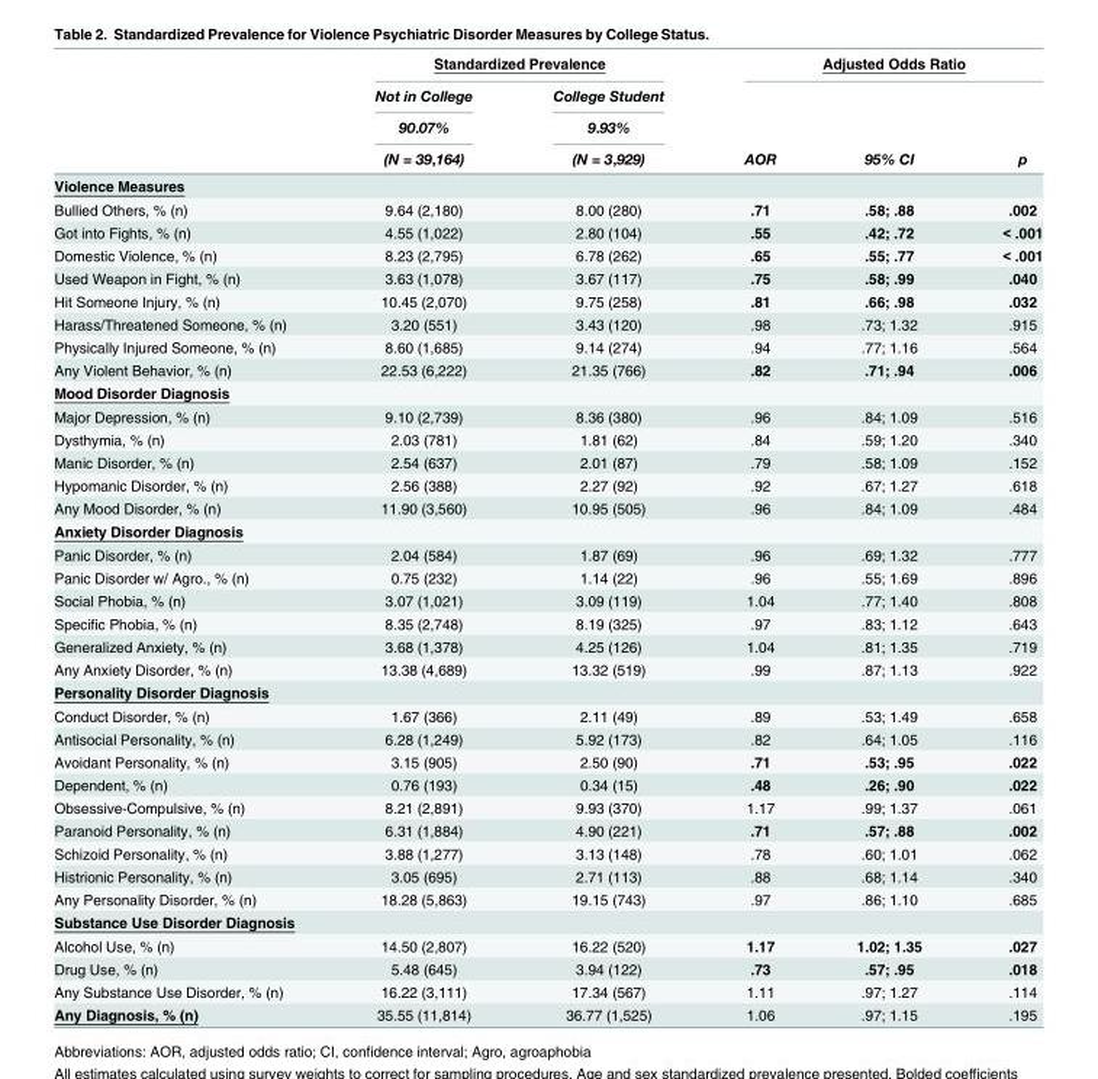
<table><thead><tr><td rowspan="4"></td><td colspan="2">Standardized Prevalence</td><td colspan="3">Adjusted Odds Ratio</td></tr><tr><td rowspan="3">Not in College 90.07% (N = 39,164)</td><td rowspan="3">College Student 9.93% (N = 3,929)</td><td rowspan="3">AOR</td><td rowspan="3">95% CI</td><td rowspan="3">p</td></tr><tr></tr><tr></tr></thead><tbody><tr><td colspan="6">Violence Measures</td></tr><tr><td>Bullied Others, % (n)</td><td>9.64 (2,180)</td><td>8.00 (280)</td><td>.71</td><td>.58; .88</td><td>.002</td></tr><tr><td>Got into Fights, % (n)</td><td>4.55 (1,022)</td><td>2.80 (104)</td><td>.55</td><td>.42; .72</td><td>&lt; .001</td></tr><tr><td>Domestic Violence, % (n)</td><td>8.23 (2,795)</td><td>6.78 (262)</td><td>.65</td><td>.55; .77</td><td>&lt; .001</td></tr><tr><td>Used Weapon in Fight, % (n)</td><td>3.63 (1,078)</td><td>3.67 (117)</td><td>.75</td><td>.58; .99</td><td>.040</td></tr><tr><td>Hit Someone Injury, % (n)</td><td>10.45 (2,070)</td><td>9.75 (258)</td><td>.81</td><td>.66; .98</td><td>.032</td></tr><tr><td>Harass/Threatened Someone, % (n)</td><td>3.20 (551)</td><td>3.43 (120)</td><td>.98</td><td>.73; 1.32</td><td>.915</td></tr><tr><td>Physically Injured Someone, % (n)</td><td>8.60 (1,685)</td><td>9.14 (274)</td><td>.94</td><td>.77; 1.16</td><td>.564</td></tr><tr><td>Any Violent Behavior, % (n)</td><td>22.53 (6,222)</td><td>21.35 (766)</td><td>.82</td><td>.71; .94</td><td>.006</td></tr><tr><td colspan="6">Mood Disorder Diagnosis</td></tr><tr><td>Major Depression, % (n)</td><td>9.10 (2,739)</td><td>8.36 (380)</td><td>.96</td><td>.84; 1.09</td><td>.516</td></tr><tr><td>Dysthymia, % (n)</td><td>2.03 (781)</td><td>1.81 (62)</td><td>.84</td><td>.59; 1.20</td><td>.340</td></tr><tr><td>Manic Disorder, % (n)</td><td>2.54 (637)</td><td>2.01 (87)</td><td>.79</td><td>.58; 1.09</td><td>.152</td></tr><tr><td>Hypomanic Disorder, % (n)</td><td>2.56 (388)</td><td>2.27 (92)</td><td>.92</td><td>.67; 1.27</td><td>.618</td></tr><tr><td>Any Mood Disorder, % (n)</td><td>11.90 (3,560)</td><td>10.95 (505)</td><td>.96</td><td>.84; 1.09</td><td>.484</td></tr><tr><td colspan="6">Anxiety Disorder Diagnosis</td></tr><tr><td>Panic Disorder, % (n)</td><td>2.04 (584)</td><td>1.87 (69)</td><td>.96</td><td>.69; 1.32</td><td>.777</td></tr><tr><td>Panic Disorder w/ Agro., % (n)</td><td>0.75 (232)</td><td>1.14 (22)</td><td>.96</td><td>.55; 1.69</td><td>.896</td></tr><tr><td>Social Phobia, % (n)</td><td>3.07 (1,021)</td><td>3.09 (119)</td><td>1.04</td><td>.77; 1.40</td><td>.808</td></tr><tr><td>Specific Phobia, % (n)</td><td>8.35 (2,748)</td><td>8.19 (325)</td><td>.97</td><td>.83; 1.12</td><td>.643</td></tr><tr><td>Generalized Anxiety, % (n)</td><td>3.68 (1,378)</td><td>4.25 (126)</td><td>1.04</td><td>.81; 1.35</td><td>.719</td></tr><tr><td>Any Anxiety Disorder, % (n)</td><td>13.38 (4,689)</td><td>13.32 (519)</td><td>.99</td><td>.87; 1.13</td><td>.922</td></tr><tr><td colspan="6">Personality Disorder Diagnosis</td></tr><tr><td>Conduct Disorder, % (n)</td><td>1.67 (366)</td><td>2.11 (49)</td><td>.89</td><td>.53; 1.49</td><td>.658</td></tr><tr><td>Antisocial Personality, % (n)</td><td>6.28 (1,249)</td><td>5.92 (173)</td><td>.82</td><td>.64; 1.05</td><td>.116</td></tr><tr><td>Avoidant Personality, % (n)</td><td>3.15 (905)</td><td>2.50 (90)</td><td>.71</td><td>.53; .95</td><td>.022</td></tr><tr><td>Dependent, % (n)</td><td>0.76 (193)</td><td>0.34 (15)</td><td>.48</td><td>.26; .90</td><td>.022</td></tr><tr><td>Obsessive-Compulsive, % (n)</td><td>8.21 (2,891)</td><td>9.93 (370)</td><td>1.17</td><td>.99; 1.37</td><td>.061</td></tr><tr><td>Paranoid Personality, % (n)</td><td>6.31 (1,884)</td><td>4.90 (221)</td><td>.71</td><td>.57; .88</td><td>.002</td></tr><tr><td>Schizoid Personality, % (n)</td><td>3.88 (1,277)</td><td>3.13 (148)</td><td>.78</td><td>.60; 1.01</td><td>.062</td></tr><tr><td>Histrionic Personality, % (n)</td><td>3.05 (695)</td><td>2.71 (113)</td><td>.88</td><td>.68; 1.14</td><td>.340</td></tr><tr><td>Any Personality Disorder, % (n)</td><td>18.28 (5,863)</td><td>19.15 (743)</td><td>.97</td><td>.86; 1.10</td><td>.685</td></tr><tr><td colspan="6">Substance Use Disorder Diagnosis</td></tr><tr><td>Alcohol Use, % (n)</td><td>14.50 (2,807)</td><td>16.22 (520)</td><td>1.17</td><td>1.02; 1.35</td><td>.027</td></tr><tr><td>Drug Use, % (n)</td><td>5.48 (645)</td><td>3.94 (122)</td><td>.73</td><td>.57; .95</td><td>.018</td></tr><tr><td>Any Substance Use Disorder, % (n)</td><td>16.22 (3,111)</td><td>17.34 (567)</td><td>1.11</td><td>.97; 1.27</td><td>.114</td></tr><tr><td>Any Diagnosis, % (n)</td><td>35.55 (11,814)</td><td>36.77 (1,525)</td><td>1.06</td><td>.97; 1.15</td><td>.195</td></tr></tbody></table>